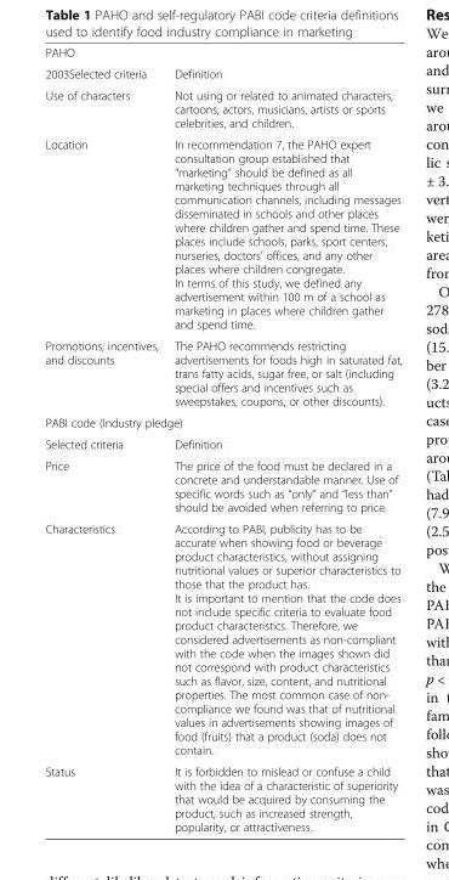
<table><tbody><tr><td colspan="2">PAHO</td></tr><tr><td>2003Selected criteria</td><td>Definition</td></tr><tr><td>Use of characters</td><td>Not using or related to animated characters, cartoons, actors, musicians, artists or sports celebrities, and children.</td></tr><tr><td>Location</td><td>In recommendation 7, the PAHO expert consultation group established that “marketing” should be defined as all marketing techniques through all communication channels, including messages disseminated in schools and other places where children gather and spend time. These places include schools, parks, sport centers, nurseries, doctors’ offices, and any other places where children congregate. In terms of this study, we defined any advertisement within 100 m of a school as marketing in places where children gather and spend time.</td></tr><tr><td>Promotions, incentives, and discounts</td><td>The PAHO recommends restricting advertisements for foods high in saturated fat, trans fatty acids, sugar free, or salt (including special offers and incentives such as sweepstakes, coupons, or other discounts).</td></tr><tr><td colspan="2">PABI code (Industry pledge)</td></tr><tr><td>Selected criteria</td><td>Definition</td></tr><tr><td>Price</td><td>The price of the food must be declared in a concrete and understandable manner. Use of specific words such as “only” and “less than” should be avoided when referring to price.</td></tr><tr><td>Characteristics</td><td>According to PABI, publicity has to be accurate when showing food or beverage product characteristics, without assigning nutritional values or superior characteristics to those that the product has. It is important to mention that the code does not include specific criteria to evaluate food product characteristics. Therefore, we considered advertisements as non-compliant with the code when the images shown did not correspond with product characteristics such as flavor, size, content, and nutritional properties. The most common case of non- compliance we found was that of nutritional values in advertisements showing images of food (fruits) that a product (soda) does not contain.</td></tr><tr><td>Status</td><td>It is forbidden to mislead or confuse a child with the idea of a characteristic of superiority that would be acquired by consuming the product, such as increased strength, popularity, or attractiveness.</td></tr></tbody></table>